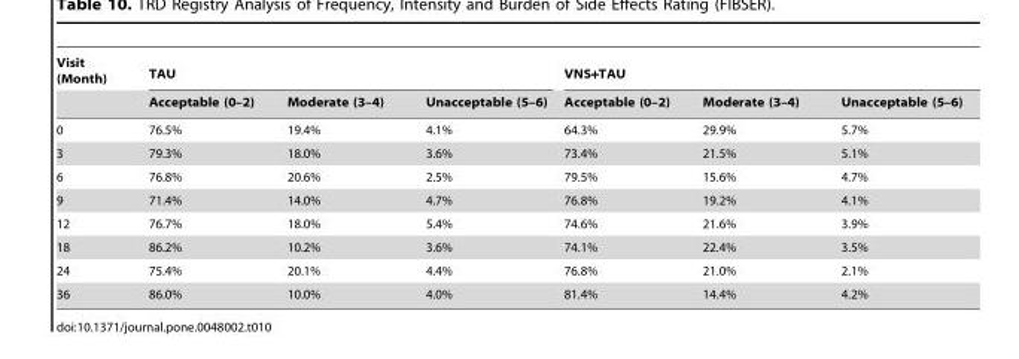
<table><thead><tr><td rowspan="2">Visit (Month)</td><td colspan="3">TAU</td><td colspan="3">VNS+TAU</td></tr><tr><td>Acceptable (0–2)</td><td>Moderate (3–4)</td><td>Unacceptable (5–6)</td><td>Acceptable (0–2)</td><td>Moderate (3–4)</td><td>Unacceptable (5–6)</td></tr></thead><tbody><tr><td>0</td><td>76.5%</td><td>19.4%</td><td>4.1%</td><td>64.3%</td><td>29.9%</td><td>5.7%</td></tr><tr><td>3</td><td>79.3%</td><td>18.0%</td><td>3.6%</td><td>73.4%</td><td>21.5%</td><td>5.1%</td></tr><tr><td>6</td><td>76.8%</td><td>20.6%</td><td>2.5%</td><td>79.5%</td><td>15.6%</td><td>4.7%</td></tr><tr><td>9</td><td>71.4%</td><td>14.0%</td><td>4.7%</td><td>76.8%</td><td>19.2%</td><td>4.1%</td></tr><tr><td>12</td><td>76.7%</td><td>18.0%</td><td>5.4%</td><td>74.6%</td><td>21.6%</td><td>3.9%</td></tr><tr><td>18</td><td>86.2%</td><td>10.2%</td><td>3.6%</td><td>74.1%</td><td>22.4%</td><td>3.5%</td></tr><tr><td>24</td><td>75.4%</td><td>20.1%</td><td>4.4%</td><td>76.8%</td><td>21.0%</td><td>2.1%</td></tr><tr><td>36</td><td>86.0%</td><td>10.0%</td><td>4.0%</td><td>81.4%</td><td>14.4%</td><td>4.2%</td></tr></tbody></table>